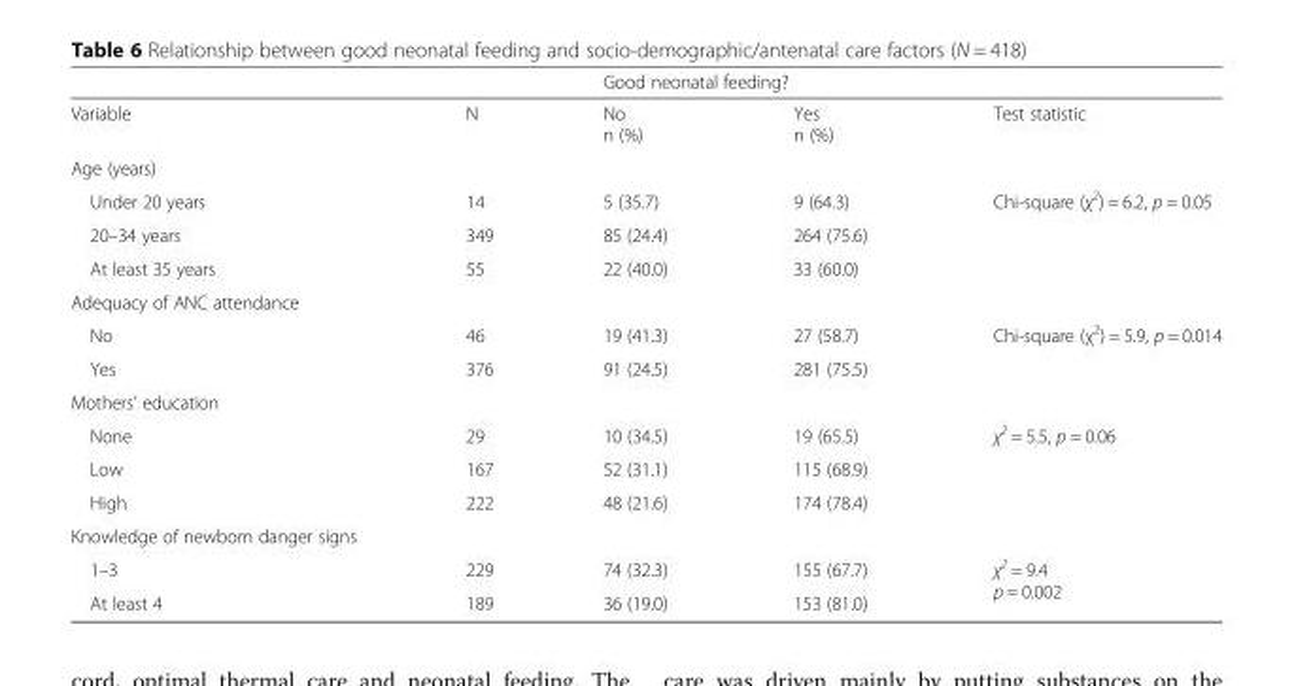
<table><thead><tr><td rowspan="2">Variable</td><td rowspan="2">N</td><td colspan="2">Good neonatal feeding?</td><td rowspan="2">Test statistic</td></tr><tr><td>No n (%)</td><td>Yes n (%)</td></tr></thead><tbody><tr><td colspan="5">Age (years)</td></tr><tr><td>Under 20 years</td><td>14</td><td>5 (35.7)</td><td>9 (64.3)</td><td rowspan="3">Chi-square (χ<sup>2</sup>) = 6.2, p = 0.05</td></tr><tr><td>20–34 years</td><td>349</td><td>85 (24.4)</td><td>264 (75.6)</td></tr><tr><td>At least 35 years</td><td>55</td><td>22 (40.0)</td><td>33 (60.0)</td></tr><tr><td colspan="5">Adequacy of ANC attendance</td></tr><tr><td>No</td><td>46</td><td>19 (41.3)</td><td>27 (58.7)</td><td rowspan="2">Chi-square (χ<sup>2</sup>) = 5.9, p = 0.014</td></tr><tr><td>Yes</td><td>376</td><td>91 (24.5)</td><td>281 (75.5)</td></tr><tr><td colspan="5">Mothers’ education</td></tr><tr><td>None</td><td>29</td><td>10 (34.5)</td><td>19 (65.5)</td><td rowspan="3">χ<sup>2</sup> = 5.5, p = 0.06</td></tr><tr><td>Low</td><td>167</td><td>52 (31.1)</td><td>115 (68.9)</td></tr><tr><td>High</td><td>222</td><td>48 (21.6)</td><td>174 (78.4)</td></tr><tr><td colspan="5">Knowledge of newborn danger signs</td></tr><tr><td>1–3</td><td>229</td><td>74 (32.3)</td><td>155 (67.7)</td><td rowspan="2">χ<sup>2</sup> = 9.4 p = 0.002</td></tr><tr><td>At least 4</td><td>189</td><td>36 (19.0)</td><td>153 (81.0)</td></tr></tbody></table>